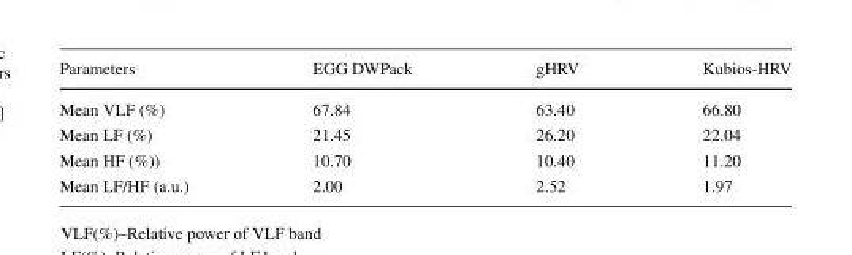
<table><thead><tr><td>Parameters</td><td>EGG DWPack</td><td>gHRV</td><td>Kubios-HRV</td></tr></thead><tbody><tr><td>Mean VLF (%)</td><td>67.84</td><td>63.40</td><td>66.80</td></tr><tr><td>Mean LF (%)</td><td>21.45</td><td>26.20</td><td>22.04</td></tr><tr><td>Mean HF (%))</td><td>10.70</td><td>10.40</td><td>11.20</td></tr><tr><td>Mean LF/HF (a.u.)</td><td>2.00</td><td>2.52</td><td>1.97</td></tr></tbody></table>